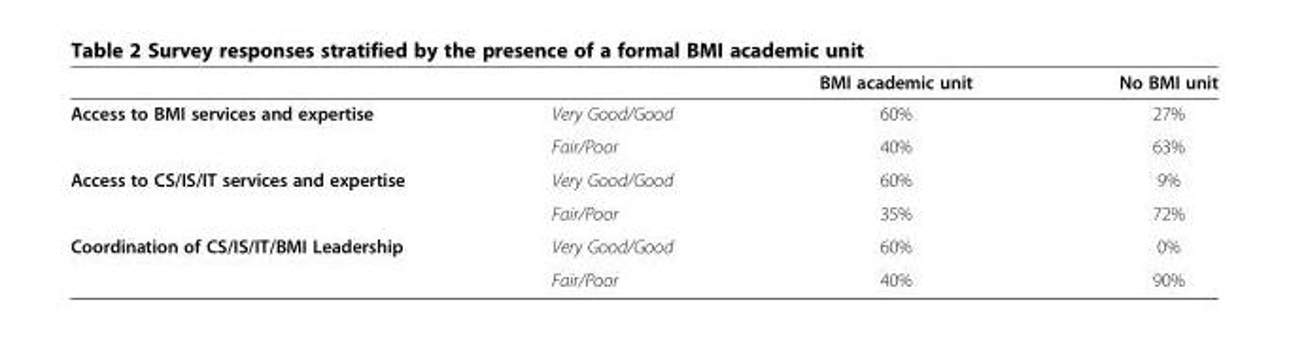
<table><thead><tr><td></td><td></td><td>BMI academic unit</td><td>No BMI unit</td></tr></thead><tbody><tr><td rowspan="2">Access to BMI services and expertise</td><td>Very Good/Good</td><td>60%</td><td>27%</td></tr><tr><td>Fair/Poor</td><td>40%</td><td>63%</td></tr><tr><td rowspan="2">Access to CS/IS/IT services and expertise</td><td>Very Good/Good</td><td>60%</td><td>9%</td></tr><tr><td>Fair/Poor</td><td>35%</td><td>72%</td></tr><tr><td rowspan="2">Coordination of CS/IS/IT/BMI Leadership</td><td>Very Good/Good</td><td>60%</td><td>0%</td></tr><tr><td>Fair/Poor</td><td>40%</td><td>90%</td></tr></tbody></table>